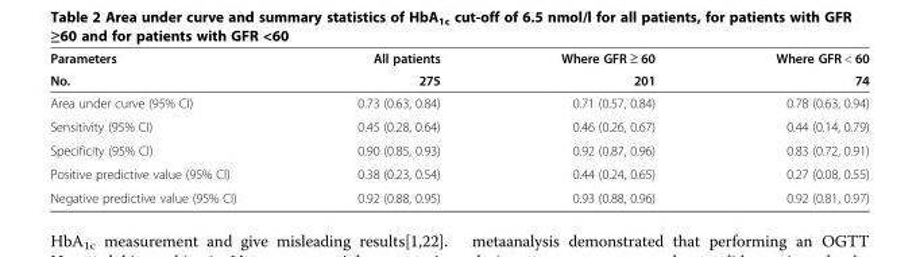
<table><thead><tr><td rowspan="2">Parameters No.</td><td rowspan="2">All patients 275</td><td rowspan="2">Where GFR ≥ 60 201</td><td rowspan="2">Where GFR &lt; 60 74</td></tr><tr></tr></thead><tbody><tr><td>Area under curve (95% CI)</td><td>0.73 (0.63, 0.84)</td><td>0.71 (0.57, 0.84)</td><td>0.78 (0.63, 0.94)</td></tr><tr><td>Sensitivity (95% CI)</td><td>0.45 (0.28, 0.64)</td><td>0.46 (0.26, 0.67)</td><td>0.44 (0.14, 0.79)</td></tr><tr><td>Specificity (95% CI)</td><td>0.90 (0.85, 0.93)</td><td>0.92 (0.87, 0.96)</td><td>0.83 (0.72, 0.91)</td></tr><tr><td>Positive predictive value (95% CI)</td><td>0.38 (0.23, 0.54)</td><td>0.44 (0.24, 0.65)</td><td>0.27 (0.08, 0.55)</td></tr><tr><td>Negative predictive value (95% CI)</td><td>0.92 (0.88, 0.95)</td><td>0.93 (0.88, 0.96)</td><td>0.92 (0.81, 0.97)</td></tr></tbody></table>